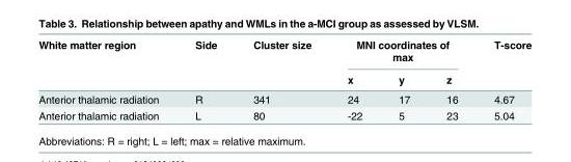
<table><thead><tr><td rowspan="2">White matter region</td><td rowspan="2">Side</td><td rowspan="2">Cluster size</td><td colspan="3">MNI coordinates of max</td><td rowspan="2">T-score</td></tr><tr><td>x</td><td>y</td><td>z</td></tr></thead><tbody><tr><td>Anterior thalamic radiation</td><td>R</td><td>341</td><td>24</td><td>17</td><td>16</td><td>4.67</td></tr><tr><td>Anterior thalamic radiation</td><td>L</td><td>80</td><td>-22</td><td>5</td><td>23</td><td>5.04</td></tr></tbody></table>